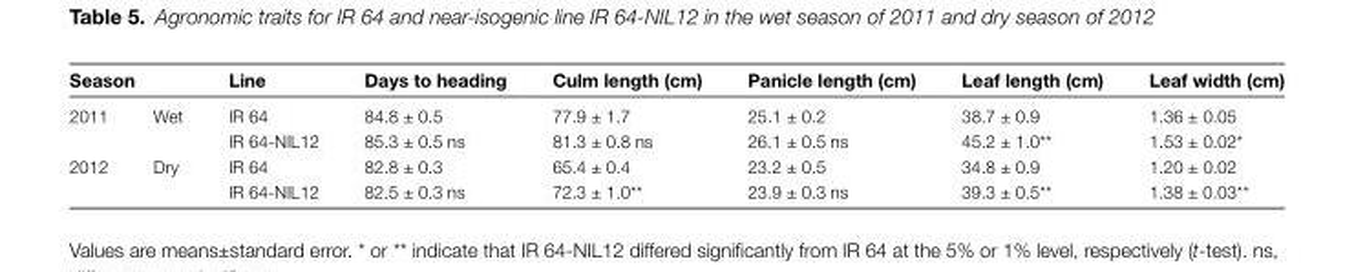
<table><thead><tr><td colspan="2">Season</td><td rowspan="2">Line IR 64</td><td rowspan="2">Days to heading 84.8 ± 0.5</td><td rowspan="2">Culm length (cm) 77.9 ± 1.7</td><td rowspan="2">Panicle length (cm) 25.1 ± 0.2</td><td rowspan="2">Leaf length (cm) 38.7 ± 0.9</td><td rowspan="2">Leaf width (cm) 1.36 ± 0.05</td></tr><tr><td>2011</td><td>Wet</td></tr></thead><tbody><tr><td></td><td></td><td>IR 64-NIL12</td><td>85.3 ± 0.5 ns</td><td>81.3 ± 0.8 ns</td><td>26.1 ± 0.5 ns</td><td>45.2 ± 1.0**</td><td>1.53 ± 0.02*</td></tr><tr><td rowspan="2">2012</td><td>Dry</td><td>IR 64</td><td>82.8 ± 0.3</td><td>65.4 ± 0.4</td><td>23.2 ± 0.5</td><td>34.8 ± 0.9</td><td>1.20 ± 0.02</td></tr><tr><td></td><td>IR 64-NIL12</td><td>82.5 ± 0.3 ns</td><td>72.3 ± 1.0**</td><td>23.9 ± 0.3 ns</td><td>39.3 ± 0.5**</td><td>1.38 ± 0.03**</td></tr></tbody></table>